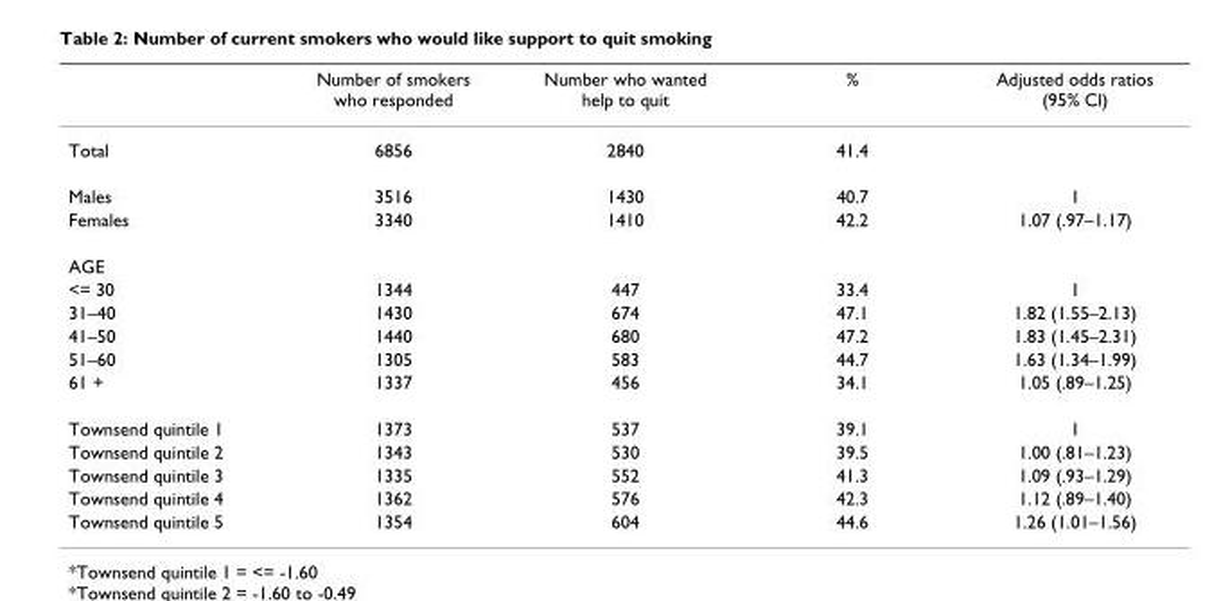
<table><thead><tr><td></td><td>Number of smokers who responded</td><td>Number who wanted help to quit</td><td>%</td><td>Adjusted odds ratios (95% Cl)</td></tr></thead><tbody><tr><td>Total</td><td>6856</td><td>2840</td><td>41.4</td><td></td></tr><tr><td>Males</td><td>3516</td><td>1430</td><td>40.7</td><td>1</td></tr><tr><td>Females</td><td>3340</td><td>1410</td><td>42.2</td><td>1.07 (.97–1.17)</td></tr><tr><td colspan="5">AGE</td></tr><tr><td>&lt;= 30</td><td>1344</td><td>447</td><td>33.4</td><td>1</td></tr><tr><td>31–40</td><td>1430</td><td>674</td><td>47.1</td><td>1.82 (1.55–2.13)</td></tr><tr><td>41–50</td><td>1440</td><td>680</td><td>47.2</td><td>1.83 (1.45–2.31)</td></tr><tr><td>51–60</td><td>1305</td><td>583</td><td>44.7</td><td>1.63 (1.34–1.99)</td></tr><tr><td>61 +</td><td>1337</td><td>456</td><td>34.1</td><td>1.05 (.89–1.25)</td></tr><tr><td>Townsend quintile 1</td><td>1373</td><td>537</td><td>39.1</td><td>1</td></tr><tr><td>Townsend quintile 2</td><td>1343</td><td>530</td><td>39.5</td><td>1.00 (.81–1.23)</td></tr><tr><td>Townsend quintile 3</td><td>1335</td><td>552</td><td>41.3</td><td>1.09 (.93–1.29)</td></tr><tr><td>Townsend quintile 4</td><td>1362</td><td>576</td><td>42.3</td><td>1.12 (.89–1.40)</td></tr><tr><td>Townsend quintile 5</td><td>1354</td><td>604</td><td>44.6</td><td>1.26 (1.01–1.56)</td></tr></tbody></table>